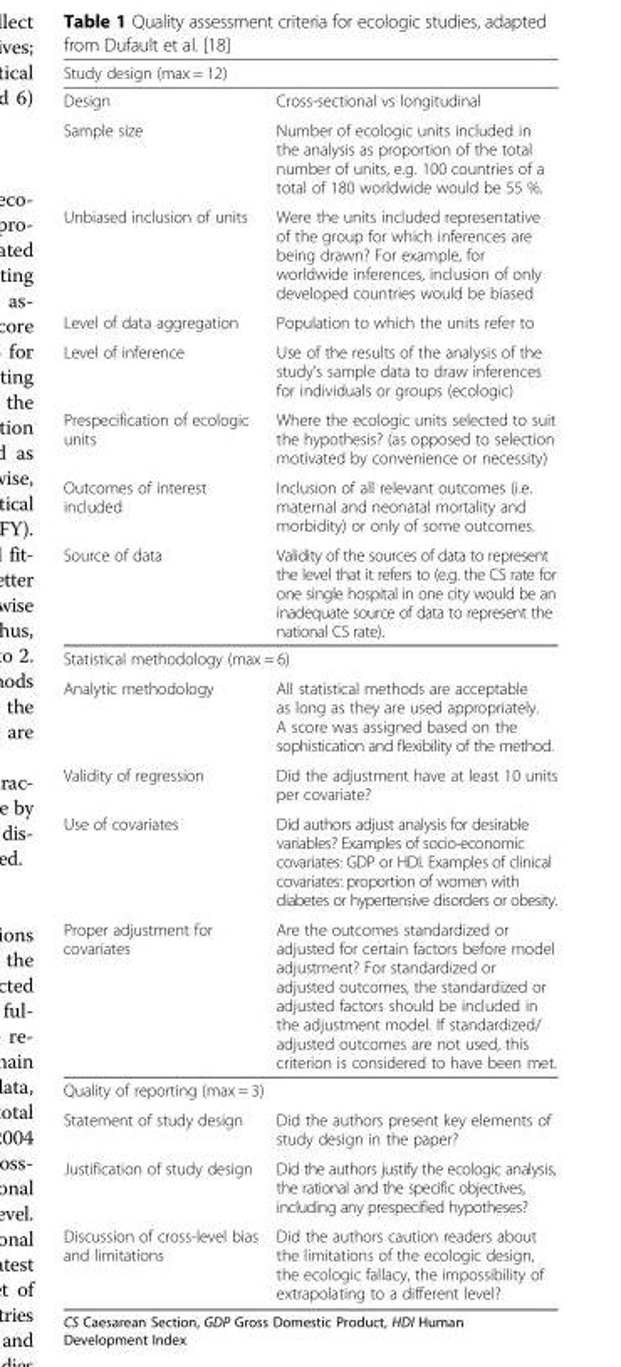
<table><thead><tr><td colspan="2">Study design (max = 12)</td></tr><tr><td>Design</td><td>Cross-sectional vs longitudinal</td></tr></thead><tbody><tr><td>Sample size</td><td>Number of ecologic units included in the analysis as proportion of the total number of units, e.g. 100 countries of a total of 180 worldwide would be 55 %.</td></tr><tr><td>Unbiased inclusion of units</td><td>Were the units included representative of the group for which inferences are being drawn? For example, for worldwide inferences, inclusion of only developed countries would be biased</td></tr><tr><td>Level of data aggregation</td><td>Population to which the units refer to</td></tr><tr><td>Level of inference</td><td>Use of the results of the analysis of the study’s sample data to draw inferences for individuals or groups (ecologic)</td></tr><tr><td>Prespecification of ecologic units</td><td>Where the ecologic units selected to suit the hypothesis? (as opposed to selection motivated by convenience or necessity)</td></tr><tr><td>Outcomes of interest included</td><td>Inclusion of all relevant outcomes (i.e. maternal and neonatal mortality and morbidity) or only of some outcomes.</td></tr><tr><td>Source of data</td><td>Validity of the sources of data to represent the level that it refers to (e.g. the CS rate for one single hospital in one city would be an inadequate source of data to represent the national CS rate).</td></tr><tr><td colspan="2">Statistical methodology (max = 6)</td></tr><tr><td>Analytic methodology</td><td>All statistical methods are acceptable as long as they are used appropriately. A score was assigned based on the sophistication and flexibility of the method.</td></tr><tr><td>Validity of regression</td><td>Did the adjustment have at least 10 units per covariate?</td></tr><tr><td>Use of covariates</td><td>Did authors adjust analysis for desirable variables? Examples of socio-economic covariates: GDP or HDI. Examples of clinical covariates: proportion of women with diabetes or hypertensive disorders or obesity.</td></tr><tr><td>Proper adjustment for covariates</td><td>Are the outcomes standardized or adjusted for certain factors before model adjustment? For standardized or adjusted outcomes, the standardized or adjusted factors should be included in the adjustment model. If standardized/ adjusted outcomes are not used, this criterion is considered to have been met.</td></tr><tr><td colspan="2">Quality of reporting (max = 3)</td></tr><tr><td>Statement of study design</td><td>Did the authors present key elements of study design in the paper?</td></tr><tr><td>Justification of study design</td><td>Did the authors justify the ecologic analysis, the rational and the specific objectives, including any prespecified hypotheses?</td></tr><tr><td>Discussion of cross-level bias and limitations</td><td>Did the authors caution readers about the limitations of the ecologic design, the ecologic fallacy, the impossibility of extrapolating to a different level?</td></tr></tbody></table>